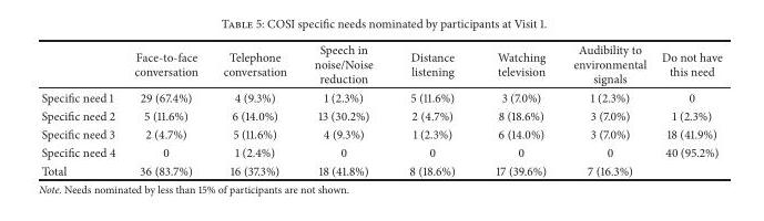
<table><thead><tr><td></td><td>Face-to-face conversation</td><td>Telephone conversation</td><td>Speech in noise/Noise reduction</td><td>Distance listening</td><td>Watching television</td><td>Audibility to environmental signals</td><td>Do not have this need</td></tr></thead><tbody><tr><td>Specific need 1</td><td>29 (67.4%)</td><td>4 (9.3%)</td><td>1 (2.3%)</td><td>5 (11.6%)</td><td>3 (7.0%)</td><td>1 (2.3%)</td><td>0</td></tr><tr><td>Specific need 2</td><td>5 (11.6%)</td><td>6 (14.0%)</td><td>13 (30.2%)</td><td>2 (4.7%)</td><td>8 (18.6%)</td><td>3 (7.0%)</td><td>1 (2.3%)</td></tr><tr><td>Specific need 3</td><td>2 (4.7%)</td><td>5 (11.6%)</td><td>4 (9.3%)</td><td>1 (2.3%)</td><td>6 (14.0%)</td><td>3 (7.0%)</td><td>18 (41.9%)</td></tr><tr><td>Specific need 4</td><td>0</td><td>1 (2.4%)</td><td>0</td><td>0</td><td>0</td><td>0</td><td>40 (95.2%)</td></tr><tr><td>Total</td><td>36 (83.7%)</td><td>16 (37.3%)</td><td>18 (41.8%)</td><td>8 (18.6%)</td><td>17 (39.6%)</td><td>7 (16.3%)</td><td></td></tr></tbody></table>